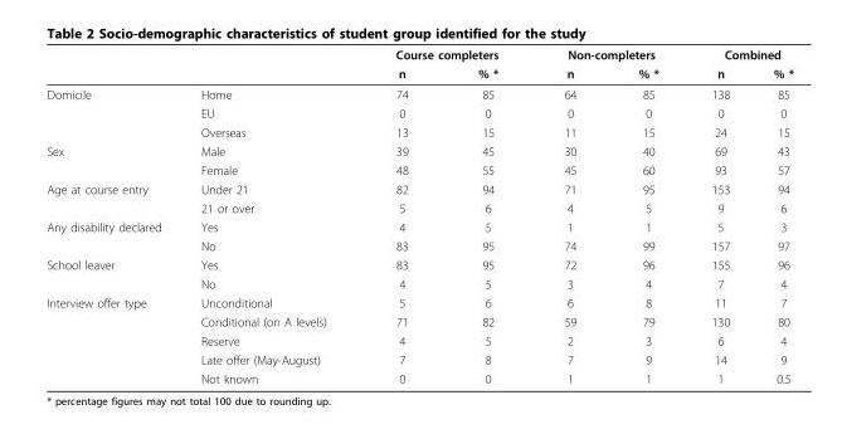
<table><thead><tr><td rowspan="2"></td><td rowspan="2"></td><td colspan="2">Course completers</td><td colspan="2">Non-completers</td><td colspan="2">Combined</td></tr><tr><td>n</td><td>% *</td><td>n</td><td>% *</td><td>n</td><td>% *</td></tr></thead><tbody><tr><td rowspan="3">Domicile</td><td>Home</td><td>74</td><td>85</td><td>64</td><td>85</td><td>138</td><td>85</td></tr><tr><td>EU</td><td>0</td><td>0</td><td>0</td><td>0</td><td>0</td><td>0</td></tr><tr><td>Overseas</td><td>13</td><td>15</td><td>11</td><td>15</td><td>24</td><td>15</td></tr><tr><td rowspan="2">Sex</td><td>Male</td><td>39</td><td>45</td><td>30</td><td>40</td><td>69</td><td>43</td></tr><tr><td>Female</td><td>48</td><td>55</td><td>45</td><td>60</td><td>93</td><td>57</td></tr><tr><td rowspan="2">Age at course entry</td><td>Under 21</td><td>82</td><td>94</td><td>71</td><td>95</td><td>153</td><td>94</td></tr><tr><td>21 or over</td><td>5</td><td>6</td><td>4</td><td>5</td><td>9</td><td>6</td></tr><tr><td rowspan="2">Any disability declared</td><td>Yes</td><td>4</td><td>5</td><td>1</td><td>1</td><td>5</td><td>3</td></tr><tr><td>No</td><td>83</td><td>95</td><td>74</td><td>99</td><td>157</td><td>97</td></tr><tr><td rowspan="2">School leaver</td><td>Yes</td><td>83</td><td>95</td><td>72</td><td>96</td><td>155</td><td>96</td></tr><tr><td>No</td><td>4</td><td>5</td><td>3</td><td>4</td><td>7</td><td>4</td></tr><tr><td rowspan="5">Interview offer type</td><td>Unconditional</td><td>5</td><td>6</td><td>6</td><td>8</td><td>11</td><td>7</td></tr><tr><td>Conditional (on A levels)</td><td>71</td><td>82</td><td>59</td><td>79</td><td>130</td><td>80</td></tr><tr><td>Reserve</td><td>4</td><td>5</td><td>2</td><td>3</td><td>6</td><td>4</td></tr><tr><td>Late offer (May-August)</td><td>7</td><td>8</td><td>7</td><td>9</td><td>14</td><td>9</td></tr><tr><td>Not known</td><td>0</td><td>0</td><td>1</td><td>1</td><td>1</td><td>0.5</td></tr></tbody></table>